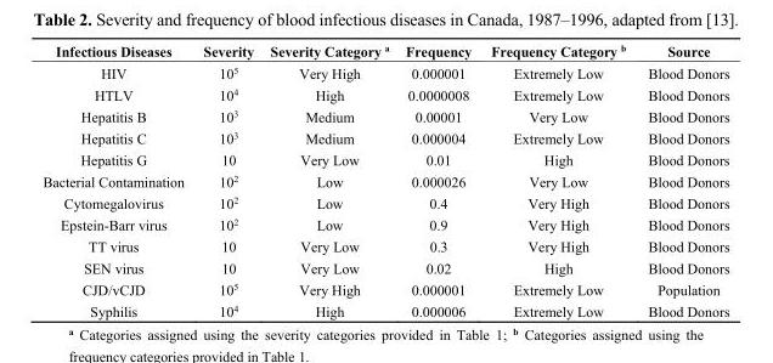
<table><thead><tr><td>Infectious Diseases</td><td>Severity</td><td>Severity Category <sup>a</sup></td><td>Frequency</td><td>Frequency Category <sup>b</sup></td><td>Source</td></tr></thead><tbody><tr><td>HIV</td><td>10<sup>5</sup></td><td>Very High</td><td>0.000001</td><td>Extremely Low</td><td>Blood Donors</td></tr><tr><td>HTLV</td><td>10<sup>4</sup></td><td>High</td><td>0.0000008</td><td>Extremely Low</td><td>Blood Donors</td></tr><tr><td>Hepatitis B</td><td>10<sup>3</sup></td><td>Medium</td><td>0.00001</td><td>Very Low</td><td>Blood Donors</td></tr><tr><td>Hepatitis C</td><td>10<sup>3</sup></td><td>Medium</td><td>0.000004</td><td>Extremely Low</td><td>Blood Donors</td></tr><tr><td>Hepatitis G</td><td>10</td><td>Very Low</td><td>0.01</td><td>High</td><td>Blood Donors</td></tr><tr><td>Bacterial Contamination</td><td>10<sup>2</sup></td><td>Low</td><td>0.000026</td><td>Very Low</td><td>Blood Donors</td></tr><tr><td>Cytomegalovirus</td><td>10<sup>2</sup></td><td>Low</td><td>0.4</td><td>Very High</td><td>Blood Donors</td></tr><tr><td>Epstein-Barr virus</td><td>10<sup>2</sup></td><td>Low</td><td>0.9</td><td>Very High</td><td>Blood Donors</td></tr><tr><td>TT virus</td><td>10</td><td>Very Low</td><td>0.3</td><td>Very High</td><td>Blood Donors</td></tr><tr><td>SEN virus</td><td>10</td><td>Very Low</td><td>0.02</td><td>High</td><td>Blood Donors</td></tr><tr><td>CJD/vCJD</td><td>10<sup>5</sup></td><td>Very High</td><td>0.000001</td><td>Extremely Low</td><td>Population</td></tr><tr><td>Syphilis</td><td>10<sup>4</sup></td><td>High</td><td>0.000006</td><td>Extremely Low</td><td>Blood Donors</td></tr></tbody></table>